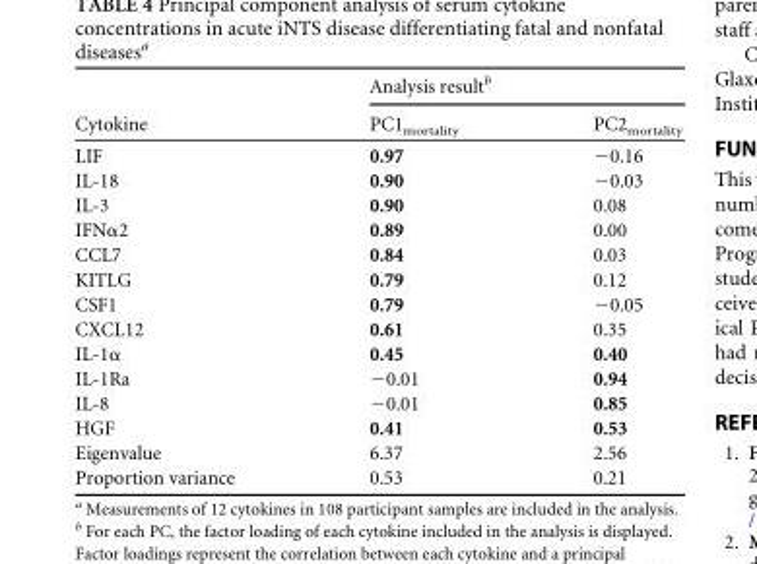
<table><thead><tr><td rowspan="2">Cytokine</td><td colspan="2">Analysis result<sup>b</sup></td></tr><tr><td>PC1<sub>mortality</sub></td><td>PC2<sub>mortality</sub></td></tr></thead><tbody><tr><td>LIF</td><td>0.97</td><td>−0.16</td></tr><tr><td>IL-18</td><td>0.90</td><td>−0.03</td></tr><tr><td>IL-3</td><td>0.90</td><td>0.08</td></tr><tr><td>IFNα2</td><td>0.89</td><td>0.00</td></tr><tr><td>CCL7</td><td>0.84</td><td>0.03</td></tr><tr><td>KITLG</td><td>0.79</td><td>0.12</td></tr><tr><td>CSF1</td><td>0.79</td><td>−0.05</td></tr><tr><td>CXCL12</td><td>0.61</td><td>0.35</td></tr><tr><td>IL-1α</td><td>0.45</td><td>0.40</td></tr><tr><td>IL-1Ra</td><td>−0.01</td><td>0.94</td></tr><tr><td>IL-8</td><td>−0.01</td><td>0.85</td></tr><tr><td>HGF</td><td>0.41</td><td>0.53</td></tr><tr><td>Eigenvalue</td><td>6.37</td><td>2.56</td></tr><tr><td>Proportion variance</td><td>0.53</td><td>0.21</td></tr></tbody></table>